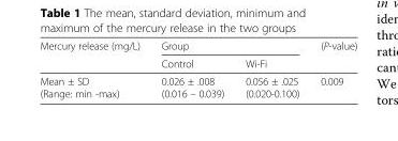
<table><thead><tr><td rowspan="2">Mercury release (mg/L)</td><td colspan="2">Group</td><td rowspan="2">(P-value)</td></tr><tr><td>Control</td><td>Wi-Fi</td></tr></thead><tbody><tr><td>Mean ± SD (Range: min -max)</td><td>0.026 ± .008 (0.016 – 0.039)</td><td>0.056 ± .025 (0.020-0.100)</td><td>0.009</td></tr></tbody></table>